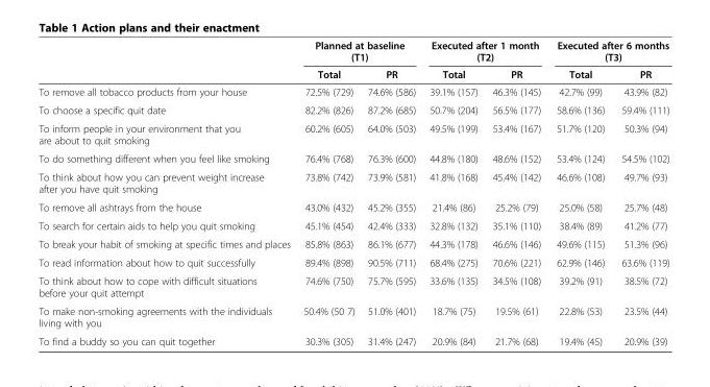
<table><thead><tr><td rowspan="2"></td><td colspan="2">Planned at baseline (T1)</td><td colspan="2">Executed after 1 month (T2)</td><td colspan="2">Executed after 6 months (T3)</td></tr><tr><td>Total</td><td>PR</td><td>Total</td><td>PR</td><td>Total</td><td>PR</td></tr></thead><tbody><tr><td>To remove all tobacco products from your house</td><td>72.5% (729)</td><td>74.6% (586)</td><td>39.1% (157)</td><td>46.3% (145)</td><td>42.7% (99)</td><td>43.9% (82)</td></tr><tr><td>To choose a specific quit date</td><td>82.2% (826)</td><td>87.2% (685)</td><td>50.7% (204)</td><td>56.5% (177)</td><td>58.6% (136)</td><td>59.4% (111)</td></tr><tr><td>To inform people in your environment that you are about to quit smoking</td><td>60.2% (605)</td><td>64.0% (503)</td><td>49.5% (199)</td><td>53.4% (167)</td><td>51.7% (120)</td><td>50.3% (94)</td></tr><tr><td>To do something different when you feel like smoking</td><td>76.4% (768)</td><td>76.3% (600)</td><td>44.8% (180)</td><td>48.6% (152)</td><td>53.4% (124)</td><td>54.5% (102)</td></tr><tr><td>To think about how you can prevent weight increase after you have quit smoking</td><td>73.8% (742)</td><td>73.9% (581)</td><td>41.8% (168)</td><td>45.4% (142)</td><td>46.6% (108)</td><td>49.7% (93)</td></tr><tr><td>To remove all ashtrays from the house</td><td>43.0% (432)</td><td>45.2% (355)</td><td>21.4% (86)</td><td>25.2% (79)</td><td>25.0% (58)</td><td>25.7% (48)</td></tr><tr><td>To search for certain aids to help you quit smoking</td><td>45.1% (454)</td><td>42.4% (333)</td><td>32.8% (132)</td><td>35.1% (110)</td><td>38.4% (89)</td><td>41.2% (77)</td></tr><tr><td>To break your habit of smoking at specific times and places</td><td>85.8% (863)</td><td>86.1% (677)</td><td>44.3% (178)</td><td>46.6% (146)</td><td>49.6% (115)</td><td>51.3% (96)</td></tr><tr><td>To read information about how to quit successfully</td><td>89.4% (898)</td><td>90.5% (711)</td><td>68.4% (275)</td><td>70.6% (221)</td><td>62.9% (146)</td><td>63.6% (119)</td></tr><tr><td>To think about how to cope with difficult situations before your quit attempt</td><td>74.6% (750)</td><td>75.7% (595)</td><td>33.6% (135)</td><td>34.5% (108)</td><td>39.2% (91)</td><td>38.5% (72)</td></tr><tr><td>To make non-smoking agreements with the individuals living with you</td><td>50.4% (50 7)</td><td>51.0% (401)</td><td>18.7% (75)</td><td>19.5% (61)</td><td>22.8% (53)</td><td>23.5% (44)</td></tr><tr><td>To find a buddy so you can quit together</td><td>30.3% (305)</td><td>31.4% (247)</td><td>20.9% (84)</td><td>21.7% (68)</td><td>19.4% (45)</td><td>20.9% (39)</td></tr></tbody></table>